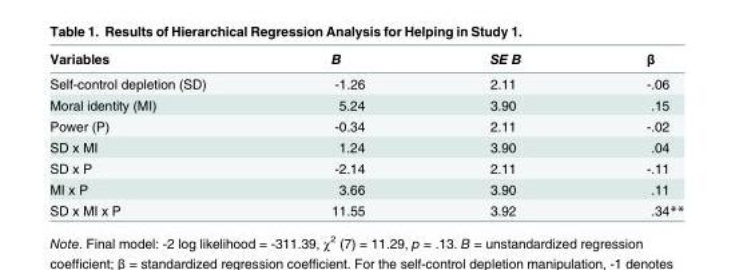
<table><thead><tr><td>Variables</td><td>B</td><td>SE B</td><td>β</td></tr></thead><tbody><tr><td>Self-control depletion (SD)</td><td>-1.26</td><td>2.11</td><td>-.06</td></tr><tr><td>Moral identity (MI)</td><td>5.24</td><td>3.90</td><td>.15</td></tr><tr><td>Power (P)</td><td>-0.34</td><td>2.11</td><td>-.02</td></tr><tr><td>SD x MI</td><td>1.24</td><td>3.90</td><td>.04</td></tr><tr><td>SD x P</td><td>-2.14</td><td>2.11</td><td>-.11</td></tr><tr><td>MI x P</td><td>3.66</td><td>3.90</td><td>.11</td></tr><tr><td>SD x MI x P</td><td>11.55</td><td>3.92</td><td>.34**</td></tr></tbody></table>